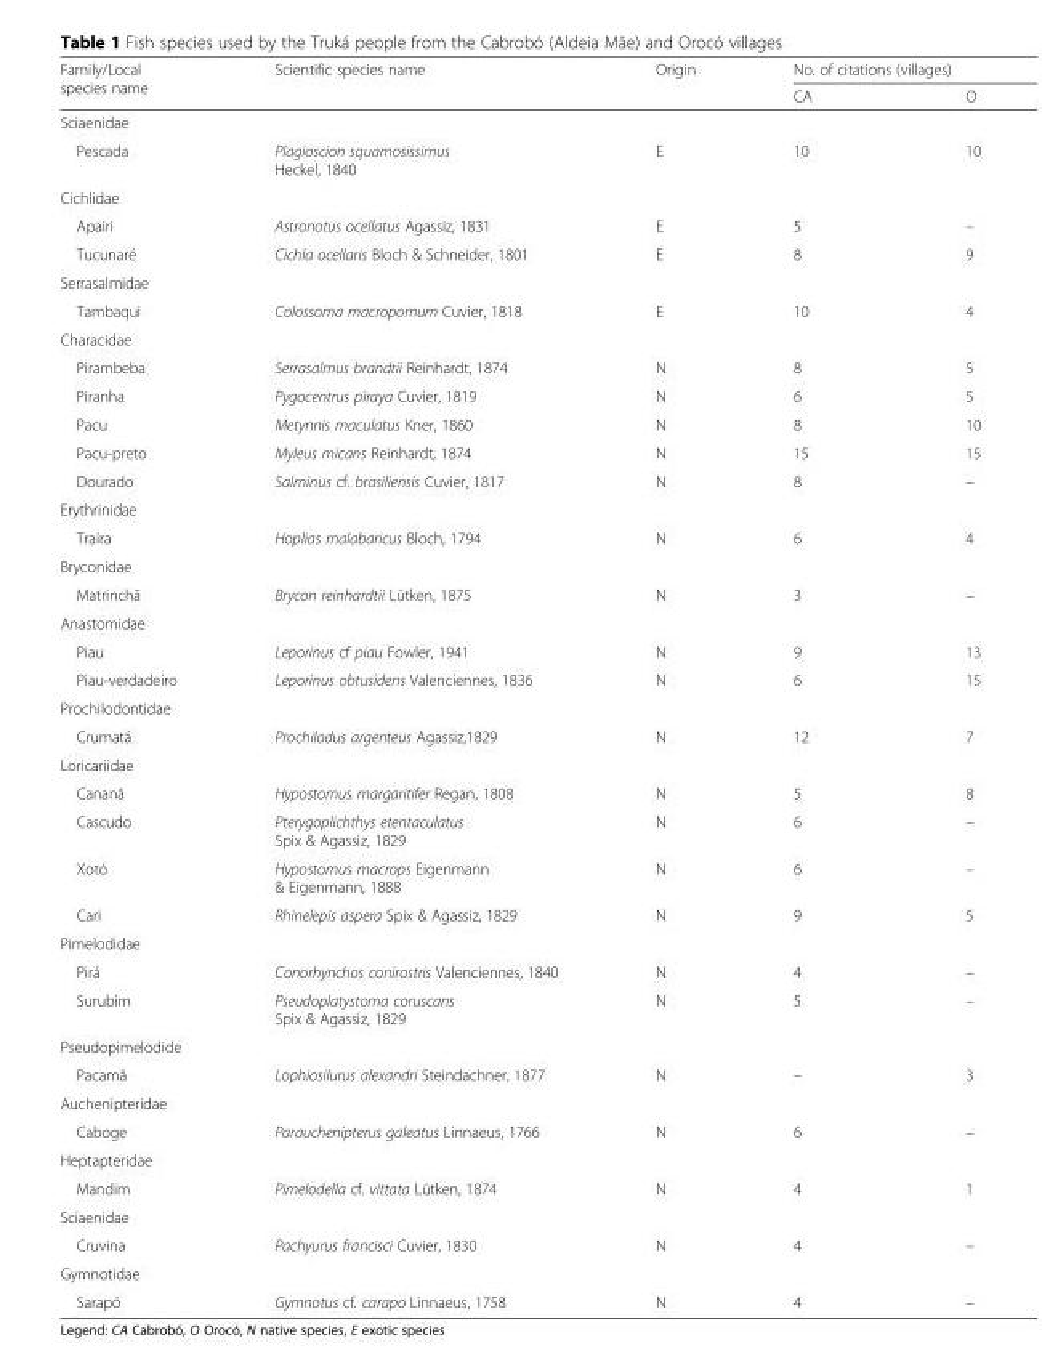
<table><thead><tr><td rowspan="2">Family/Local species name</td><td rowspan="2">Scientific species name</td><td rowspan="2">Origin</td><td colspan="2">No. of citations (villages)</td></tr><tr><td>CA</td><td>O</td></tr></thead><tbody><tr><td colspan="5">Sciaenidae</td></tr><tr><td>Pescada</td><td>Plagioscion squamosissimus Heckel, 1840</td><td>E</td><td>10</td><td>10</td></tr><tr><td colspan="5">Cichlidae</td></tr><tr><td>Apairi</td><td>Astronotus ocellatus Agassiz, 1831</td><td>E</td><td>5</td><td>–</td></tr><tr><td>Tucunaré</td><td>Cichla ocellaris Bloch &amp; Schneider, 1801</td><td>E</td><td>8</td><td>9</td></tr><tr><td colspan="5">Serrasalmidae</td></tr><tr><td>Tambaqui</td><td>Colossoma macropomum Cuvier, 1818</td><td>E</td><td>10</td><td>4</td></tr><tr><td colspan="5">Characidae</td></tr><tr><td>Pirambeba</td><td>Serrasalmus brandtii Reinhardt, 1874</td><td>N</td><td>8</td><td>5</td></tr><tr><td>Piranha</td><td>Pygocentrus piraya Cuvier, 1819</td><td>N</td><td>6</td><td>5</td></tr><tr><td>Pacu</td><td>Metynnis maculatus Kner, 1860</td><td>N</td><td>8</td><td>10</td></tr><tr><td>Pacu-preto</td><td>Myleus micans Reinhardt, 1874</td><td>N</td><td>15</td><td>15</td></tr><tr><td>Dourado</td><td>Salminus cf. brasiliensis Cuvier, 1817</td><td>N</td><td>8</td><td>–</td></tr><tr><td colspan="5">Erythrinidae</td></tr><tr><td>Traíra</td><td>Hoplias malabaricus Bloch, 1794</td><td>N</td><td>6</td><td>4</td></tr><tr><td colspan="5">Bryconidae</td></tr><tr><td>Matrinchã</td><td>Brycon reinhardtii Lütken, 1875</td><td>N</td><td>3</td><td>–</td></tr><tr><td colspan="5">Anastomidae</td></tr><tr><td>Piau</td><td>Leporinus cf piau Fowler, 1941</td><td>N</td><td>9</td><td>13</td></tr><tr><td>Piau-verdadeiro</td><td>Leporinus obtusidens Valenciennes, 1836</td><td>N</td><td>6</td><td>15</td></tr><tr><td colspan="5">Prochilodontidae</td></tr><tr><td>Crumatá</td><td>Prochilodus argenteus Agassiz,1829</td><td>N</td><td>12</td><td>7</td></tr><tr><td colspan="5">Loricariidae</td></tr><tr><td>Cananã</td><td>Hypostomus margaritifer Regan, 1808</td><td>N</td><td>5</td><td>8</td></tr><tr><td>Cascudo</td><td>Pterygoplichthys etentaculatus Spix &amp; Agassiz, 1829</td><td>N</td><td>6</td><td>–</td></tr><tr><td>Xotó</td><td>Hypostomus macrops Eigenmann &amp; Eigenmann, 1888</td><td>N</td><td>6</td><td>–</td></tr><tr><td>Cari</td><td>Rhinelepis aspera Spix &amp; Agassiz, 1829</td><td>N</td><td>9</td><td>5</td></tr><tr><td colspan="5">Pimelodidae</td></tr><tr><td>Pirá</td><td>Conorhynchos conirostris Valenciennes, 1840</td><td>N</td><td>4</td><td>–</td></tr><tr><td>Surubim</td><td>Pseudoplatystoma coruscans Spix &amp; Agassiz, 1829</td><td>N</td><td>5</td><td>–</td></tr><tr><td colspan="5">Pseudopimelodide</td></tr><tr><td>Pacamã</td><td>Lophiosilurus alexandri Steindachner, 1877</td><td>N</td><td>–</td><td>3</td></tr><tr><td colspan="5">Auchenipteridae</td></tr><tr><td>Caboge</td><td>Parauchenipterus galeatus Linnaeus, 1766</td><td>N</td><td>6</td><td>–</td></tr><tr><td colspan="5">Heptapteridae</td></tr><tr><td>Mandim</td><td>Pimelodella cf. vittata Lütken, 1874</td><td>N</td><td>4</td><td>1</td></tr><tr><td colspan="5">Sciaenidae</td></tr><tr><td>Cruvina</td><td>Pachyurus francisci Cuvier, 1830</td><td>N</td><td>4</td><td>–</td></tr><tr><td colspan="5">Gymnotidae</td></tr><tr><td>Sarapó</td><td>Gymnotus cf. carapo Linnaeus, 1758</td><td>N</td><td>4</td><td>–</td></tr></tbody></table>